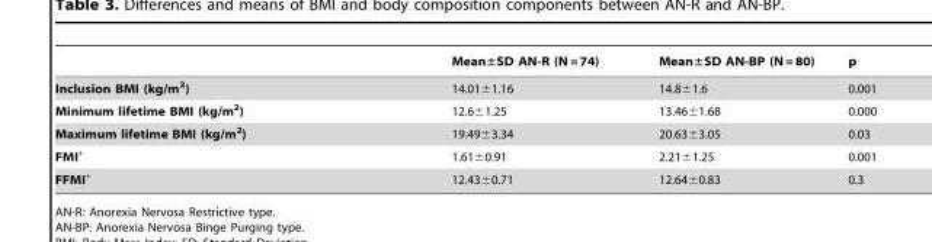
<table><thead><tr><td></td><td>Mean±SD AN-R (N = 74)</td><td>Mean±SD AN-BP (N = 80)</td><td>p</td></tr></thead><tbody><tr><td>Inclusion BMI (kg/m<sup>2</sup>)</td><td>14.01±1.16</td><td>14.8±1.6</td><td>0.001</td></tr><tr><td>Minimum lifetime BMI (kg/m<sup>2</sup>)</td><td>12.6±1.25</td><td>13.46±1.68</td><td>0.000</td></tr><tr><td>Maximum lifetime BMI (kg/m<sup>2</sup>)</td><td>19.49±3.34</td><td>20.63±3.05</td><td>0.03</td></tr><tr><td>FMI+</td><td>1.61±0.91</td><td>2.21±1.25</td><td>0.001</td></tr><tr><td>FFMI+</td><td>12.43±0.71</td><td>12.64±0.83</td><td>0.3</td></tr></tbody></table>